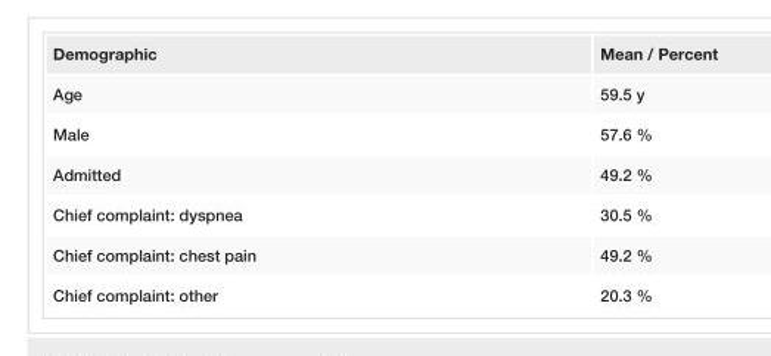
<table><tbody><tr><td>Demographic</td><td>Mean / Percent</td></tr><tr><td>Age</td><td>59.5 y</td></tr><tr><td>Male</td><td>57.6 %</td></tr><tr><td>Admitted</td><td>49.2 %</td></tr><tr><td>Chief complaint: dyspnea</td><td>30.5 %</td></tr><tr><td>Chief complaint: chest pain</td><td>49.2 %</td></tr><tr><td>Chief complaint: other</td><td>20.3 %</td></tr></tbody></table>